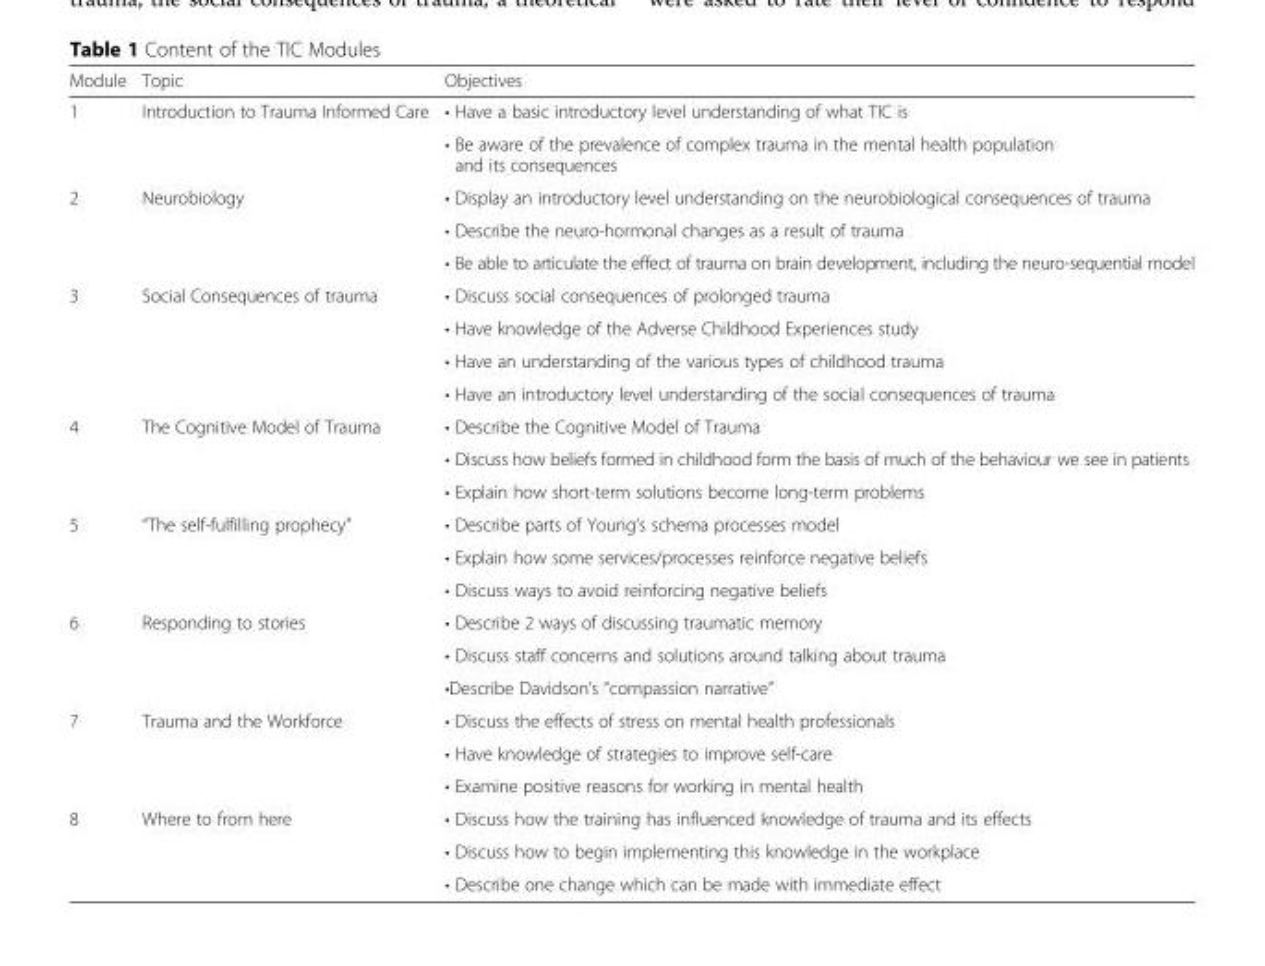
<table><thead><tr><td>Module</td><td>Topic</td><td>Objectives</td></tr></thead><tbody><tr><td rowspan="2">1</td><td rowspan="2">Introduction to Trauma Informed Care</td><td>• Have a basic introductory level understanding of what TIC is</td></tr><tr><td>• Be aware of the prevalence of complex trauma in the mental health population and its consequences</td></tr><tr><td rowspan="3">2</td><td rowspan="3">Neurobiology</td><td>• Display an introductory level understanding on the neurobiological consequences of trauma</td></tr><tr><td>• Describe the neuro-hormonal changes as a result of trauma</td></tr><tr><td>• Be able to articulate the effect of trauma on brain development, including the neuro-sequential model</td></tr><tr><td rowspan="4">3</td><td rowspan="4">Social Consequences of trauma</td><td>• Discuss social consequences of prolonged trauma</td></tr><tr><td>• Have knowledge of the Adverse Childhood Experiences study</td></tr><tr><td>• Have an understanding of the various types of childhood trauma</td></tr><tr><td>• Have an introductory level understanding of the social consequences of trauma</td></tr><tr><td rowspan="3">4</td><td rowspan="3">The Cognitive Model of Trauma</td><td>• Describe the Cognitive Model of Trauma</td></tr><tr><td>• Discuss how beliefs formed in childhood form the basis of much of the behaviour we see in patients</td></tr><tr><td>• Explain how short-term solutions become long-term problems</td></tr><tr><td rowspan="3">5</td><td rowspan="3">“The self-fulfilling prophecy”</td><td>• Describe parts of Young’s schema processes model</td></tr><tr><td>• Explain how some services/processes reinforce negative beliefs</td></tr><tr><td>• Discuss ways to avoid reinforcing negative beliefs</td></tr><tr><td rowspan="3">6</td><td rowspan="3">Responding to stories</td><td>• Describe 2 ways of discussing traumatic memory</td></tr><tr><td>• Discuss staff concerns and solutions around talking about trauma</td></tr><tr><td>•Describe Davidson’s “compassion narrative”</td></tr><tr><td rowspan="3">7</td><td rowspan="3">Trauma and the Workforce</td><td>• Discuss the effects of stress on mental health professionals</td></tr><tr><td>• Have knowledge of strategies to improve self-care</td></tr><tr><td>• Examine positive reasons for working in mental health</td></tr><tr><td rowspan="3">8</td><td rowspan="3">Where to from here</td><td>• Discuss how the training has influenced knowledge of trauma and its effects</td></tr><tr><td>• Discuss how to begin implementing this knowledge in the workplace</td></tr><tr><td>• Describe one change which can be made with immediate effect</td></tr></tbody></table>